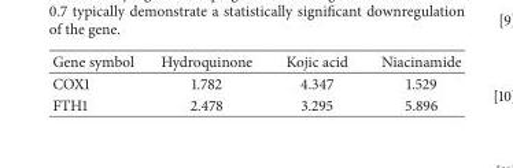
<table><thead><tr><td>Gene symbol</td><td>Hydroquinone</td><td>Kojic acid</td><td>Niacinamide</td></tr></thead><tbody><tr><td>COX1</td><td>1.782</td><td>4.347</td><td>1.529</td></tr><tr><td>FTH1</td><td>2.478</td><td>3.295</td><td>5.896</td></tr></tbody></table>